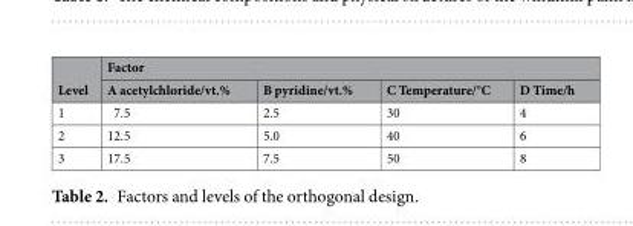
<table><thead><tr><td rowspan="2">Level</td><td colspan="4">Factor</td></tr><tr><td>A acetylchloride/vt.%</td><td>B pyridine/vt.%</td><td>C Temperature/°C</td><td>D Time/h</td></tr></thead><tbody><tr><td>1</td><td>7.5</td><td>2.5</td><td>30</td><td>4</td></tr><tr><td>2</td><td>12.5</td><td>5.0</td><td>40</td><td>6</td></tr><tr><td>3</td><td>17.5</td><td>7.5</td><td>50</td><td>8</td></tr></tbody></table>